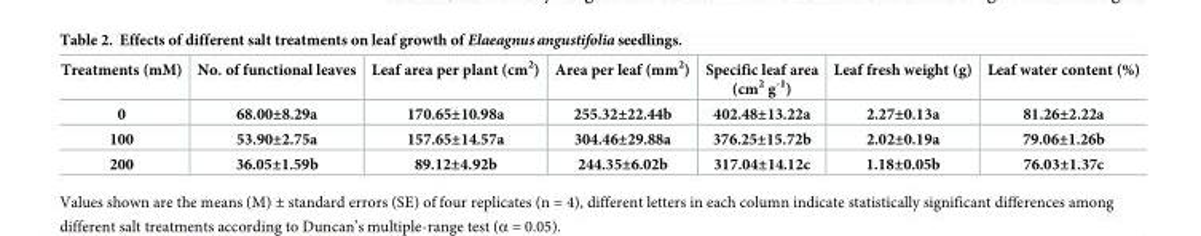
<table><thead><tr><td>Treatments (mM)</td><td>No. of functional leaves</td><td>Leaf area per plant (cm<sup>2</sup>)</td><td>Area per leaf (mm<sup>2</sup>)</td><td>Specific leaf area (cm<sup>2</sup> g<sup>-1</sup>)</td><td>Leaf fresh weight (g)</td><td>Leaf water content (%)</td></tr></thead><tbody><tr><td>0</td><td>68.00±8.29a</td><td>170.65±10.98a</td><td>255.32±22.44b</td><td>402.48±13.22a</td><td>2.27±0.13a</td><td>81.26±2.22a</td></tr><tr><td>100</td><td>53.90±2.75a</td><td>157.65±14.57a</td><td>304.46±29.88a</td><td>376.25±15.72b</td><td>2.02±0.19a</td><td>79.06±1.26b</td></tr><tr><td>200</td><td>36.05±1.59b</td><td>89.12±4.92b</td><td>244.35±6.02b</td><td>317.04±14.12c</td><td>1.18±0.05b</td><td>76.03±1.37c</td></tr></tbody></table>